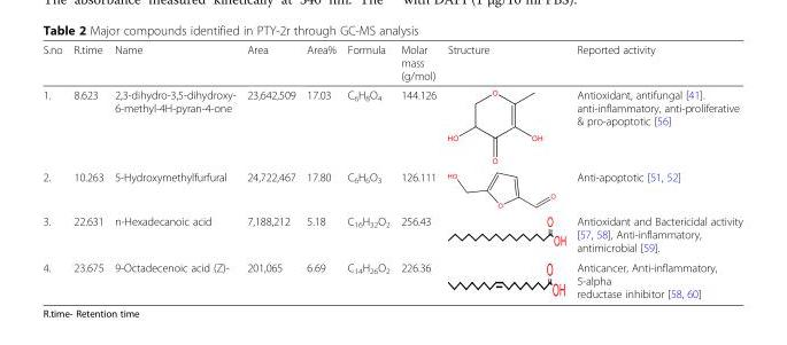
<table><thead><tr><td>S.no</td><td>R.time</td><td>Name</td><td>Area</td><td>Area%</td><td>Formula</td><td>Molar mass (g/mol)</td><td>Structure</td><td>Reported activity</td></tr></thead><tbody><tr><td>1.</td><td>8.623</td><td>2,3-dihydro-3,5-dihydroxy- 6-methyl-4H-pyran-4-one</td><td>23,642,509</td><td>17.03</td><td>C<sub>6</sub>H<sub>8</sub>O<sub>4</sub></td><td>144.126</td><td></td><td>Antioxidant, antifungal [41]. anti-inflammatory, anti-proliferative &amp; pro-apoptotic [56]</td></tr><tr><td>2.</td><td>10.263</td><td>5-Hydroxymethylfurfural</td><td>24,722,467</td><td>17.80</td><td>C<sub>6</sub>H<sub>6</sub>O<sub>3</sub></td><td>126.111</td><td></td><td>Anti-apoptotic [51, 52]</td></tr><tr><td>3.</td><td>22.631</td><td>n-Hexadecanoic acid</td><td>7,188,212</td><td>5.18</td><td>C<sub>16</sub>H<sub>32</sub>O<sub>2</sub></td><td>256.43</td><td></td><td>Antioxidant and Bactericidal activity [57, 58], Anti-inflammatory, antimicrobial [59].</td></tr><tr><td>4.</td><td>23.675</td><td>9-Octadecenoic acid (Z)-</td><td>201,065</td><td>6.69</td><td>C<sub>14</sub>H<sub>26</sub>O<sub>2</sub></td><td>226.36</td><td></td><td>Anticancer, Anti-inflammatory, 5-alpha reductase inhibitor [58, 60]</td></tr></tbody></table>